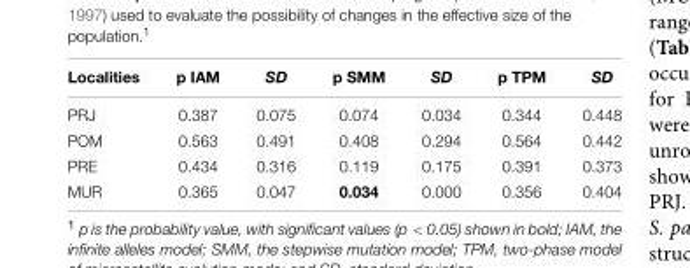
<table><thead><tr><td>Localities</td><td>p IAM</td><td>SD</td><td>p SMM</td><td>SD</td><td>p TPM</td><td>SD</td></tr></thead><tbody><tr><td>PRJ</td><td>0.387</td><td>0.075</td><td>0.074</td><td>0.034</td><td>0.344</td><td>0.448</td></tr><tr><td>POM</td><td>0.563</td><td>0.491</td><td>0.408</td><td>0.294</td><td>0.564</td><td>0.442</td></tr><tr><td>PRE</td><td>0.434</td><td>0.316</td><td>0.119</td><td>0.175</td><td>0.391</td><td>0.373</td></tr><tr><td>MUR</td><td>0.365</td><td>0.047</td><td>0.034</td><td>0.000</td><td>0.356</td><td>0.404</td></tr></tbody></table>